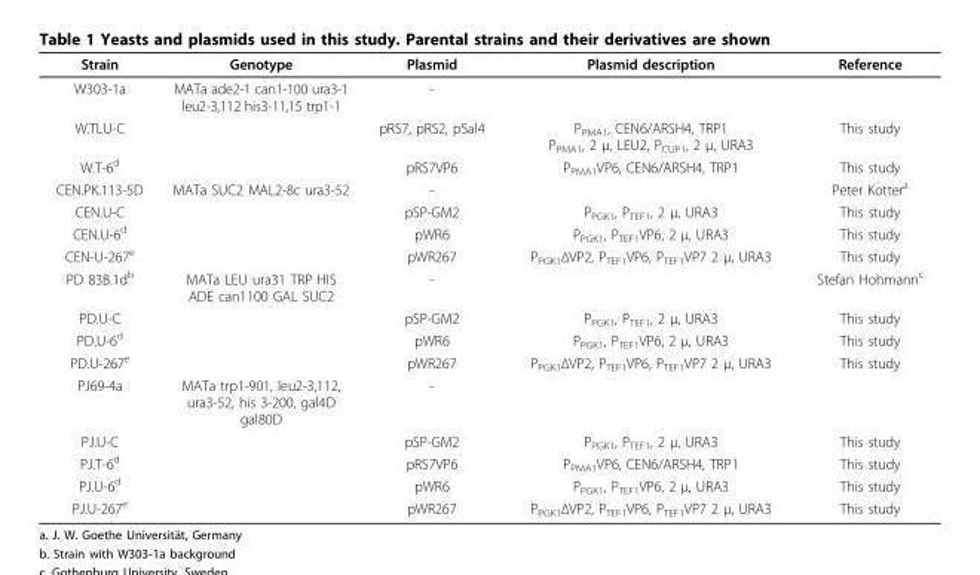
<table><thead><tr><td>Strain</td><td>Genotype</td><td>Plasmid</td><td>Plasmid description</td><td>Reference</td></tr></thead><tbody><tr><td>W303-1a</td><td>MATa ade2-1 can1-100 ura3-1 leu2-3,112 his3-11,15 trp1-1</td><td>-</td><td></td><td></td></tr><tr><td>W.TLU-C</td><td></td><td>pRS7, pRS2, pSal4</td><td>P<sub>PMA1</sub>, CEN6/ARSH4, TRP1 P<sub>PMA1</sub>, 2 μ, LEU2, P<sub>CUP1</sub>, 2 μ, URA3</td><td>This study</td></tr><tr><td>W.T-6<sup>d</sup></td><td></td><td>pRS7VP6</td><td>P<sub>PMA1</sub>VP6, CEN6/ARSH4, TRP1</td><td>This study</td></tr><tr><td>CEN.PK.113-5D</td><td>MATa SUC2 MAL2-8c ura3-52</td><td>-</td><td></td><td>Peter Kotter<sup>a</sup></td></tr><tr><td>CEN.U-C</td><td></td><td>pSP-GM2</td><td>P<sub>PGK1</sub>, P<sub>TEF1</sub>, 2 μ, URA3</td><td>This study</td></tr><tr><td>CEN.U-6<sup>d</sup></td><td></td><td>pWR6</td><td>P<sub>PGK1</sub>, P<sub>TEF1</sub>VP6, 2 μ, URA3</td><td>This study</td></tr><tr><td>CEN-U-267<sup>e</sup></td><td></td><td>pWR267</td><td>P<sub>PGK1</sub>ΔVP2, P<sub>TEF1</sub>VP6, P<sub>TEF1</sub>VP7 2 μ, URA3</td><td>This study</td></tr><tr><td>PD 83B.1d<sup>b</sup></td><td>MATa LEU ura31 TRP HIS ADE can1100 GAL SUC2</td><td>-</td><td></td><td>Stefan Hohmann<sup>c</sup></td></tr><tr><td>PD.U-C</td><td></td><td>pSP-GM2</td><td>P<sub>PGK1</sub>, P<sub>TEF1</sub>, 2 μ, URA3</td><td>This study</td></tr><tr><td>PD.U-6<sup>d</sup></td><td></td><td>pWR6</td><td>P<sub>PGK1</sub>, P<sub>TEF1</sub>VP6, 2 μ, URA3</td><td>This study</td></tr><tr><td>PD.U-267<sup>e</sup></td><td></td><td>pWR267</td><td>P<sub>PGK1</sub>ΔVP2, P<sub>TEF1</sub>VP6, P<sub>TEF1</sub>VP7 2 μ, URA3</td><td>This study</td></tr><tr><td>PJ69-4a</td><td>MATa trp1-901, leu2-3,112, ura3-52, his 3-200, gal4D gal80D</td><td>-</td><td></td><td></td></tr><tr><td>PJ.U-C</td><td></td><td>pSP-GM2</td><td>P<sub>PGK1</sub>, P<sub>TEF1</sub>, 2 μ, URA3</td><td>This study</td></tr><tr><td>PJ.T-6<sup>d</sup></td><td></td><td>pRS7VP6</td><td>P<sub>PMA1</sub>VP6, CEN6/ARSH4, TRP1</td><td>This study</td></tr><tr><td>PJ.U-6<sup>d</sup></td><td></td><td>pWR6</td><td>P<sub>PGK1</sub>, P<sub>TEF1</sub>VP6, 2 μ, URA3</td><td>This study</td></tr><tr><td>PJ.U-267<sup>e</sup></td><td></td><td>pWR267</td><td>P<sub>PGK1</sub>ΔVP2, P<sub>TEF1</sub>VP6, P<sub>TEF1</sub>VP7 2 μ, URA3</td><td>This study</td></tr></tbody></table>